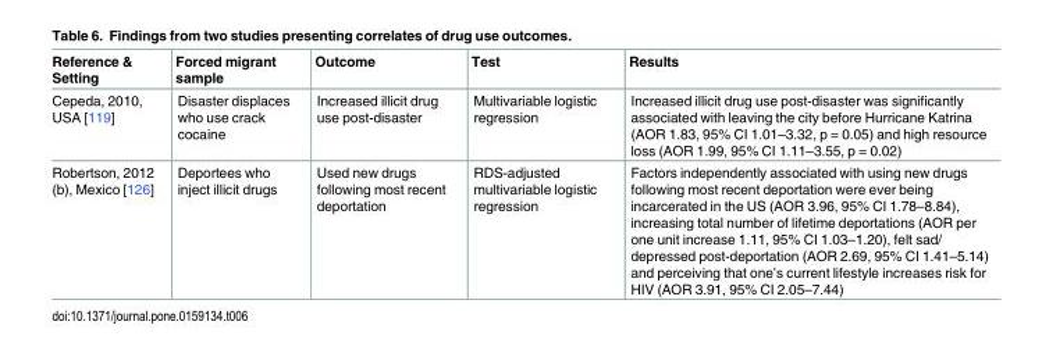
<table><thead><tr><td>Reference &amp; Setting</td><td>Forced migrant sample</td><td>Outcome</td><td>Test</td><td>Results</td></tr></thead><tbody><tr><td>Cepeda, 2010, USA [119]</td><td>Disaster displaces who use crack cocaine</td><td>Increased illicit drug use post-disaster</td><td>Multivariable logistic regression</td><td>Increased illicit drug use post-disaster was significantly associated with leaving the city before Hurricane Katrina (AOR 1.83, 95% CI 1.01–3.32, p = 0.05) and high resource loss (AOR 1.99, 95% CI 1.11–3.55, p = 0.02)</td></tr><tr><td>Robertson, 2012 (b), Mexico [126]</td><td>Deportees who inject illicit drugs</td><td>Used new drugs following most recent deportation</td><td>RDS-adjusted multivariable logistic regression</td><td>Factors independently associated with using new drugs following most recent deportation were ever being incarcerated in the US (AOR 3.96, 95% CI 1.78–8.84), increasing total number of lifetime deportations (AOR per one unit increase 1.11, 95% CI 1.03–1.20), felt sad/ depressed post-deportation (AOR 2.69, 95% CI 1.41–5.14) and perceiving that one’s current lifestyle increases risk for HIV (AOR 3.91, 95% CI 2.05–7.44)</td></tr></tbody></table>